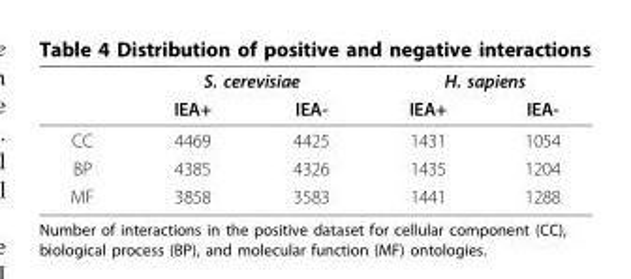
<table><thead><tr><td rowspan="2"></td><td colspan="2">S. cerevisiae</td><td colspan="2">H. sapiens</td></tr><tr><td>IEA+</td><td>IEA-</td><td>IEA+</td><td>IEA-</td></tr></thead><tbody><tr><td>CC</td><td>4469</td><td>4425</td><td>1431</td><td>1054</td></tr><tr><td>BP</td><td>4385</td><td>4326</td><td>1435</td><td>1204</td></tr><tr><td>MF</td><td>3858</td><td>3583</td><td>1441</td><td>1288</td></tr></tbody></table>